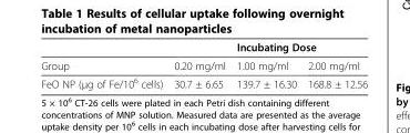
<table><thead><tr><td rowspan="2">Group</td><td rowspan="2">0.20 mg/ml</td><td colspan="2">Incubating Dose</td></tr><tr><td>1.00 mg/ml</td><td>2.00 mg/ml</td></tr></thead><tbody><tr><td>FeO NP (μg of Fe/10<sup>6</sup> cells)</td><td>30.7 ± 6.65</td><td>139.7 ± 16.30</td><td>168.8 ± 12.56</td></tr></tbody></table>